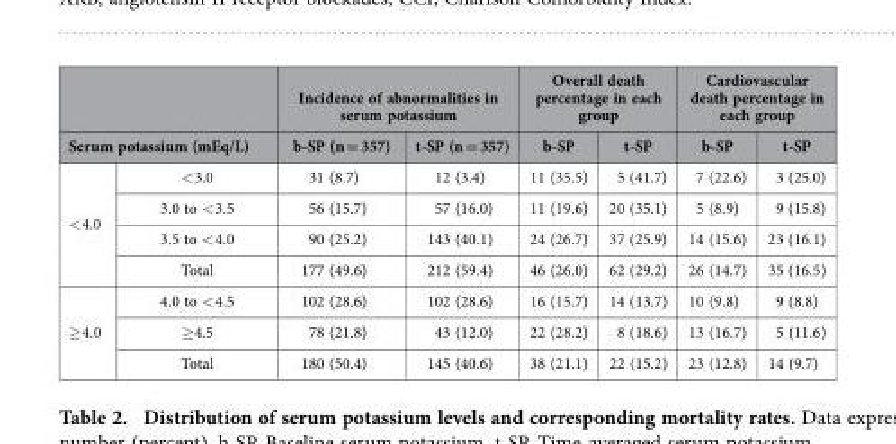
<table><thead><tr><td></td><td></td><td colspan="2">Incidence of abnormalities in serum potassium</td><td colspan="2">Overall death percentage in each group</td><td colspan="2">Cardiovascular death percentage in each group</td></tr><tr><td colspan="2">Serum potassium (mEq/L)</td><td>b-SP (n = 357)</td><td>t-SP (n = 357)</td><td>b-SP</td><td>t-SP</td><td>b-SP</td><td>t-SP</td></tr></thead><tbody><tr><td rowspan="4">&lt; 4.0</td><td>&lt; 3.0</td><td>31 (8.7)</td><td>12 (3.4)</td><td>11 (35.5)</td><td>5 (41.7)</td><td>7 (22.6)</td><td>3 (25.0)</td></tr><tr><td>3.0 to &lt; 3.5</td><td>56 (15.7)</td><td>57 (16.0)</td><td>11 (19.6)</td><td>20 (35.1)</td><td>5 (8.9)</td><td>9 (15.8)</td></tr><tr><td>3.5 to &lt; 4.0</td><td>90 (25.2)</td><td>143 (40.1)</td><td>24 (26.7)</td><td>37 (25.9)</td><td>14 (15.6)</td><td>23 (16.1)</td></tr><tr><td>Total</td><td>177 (49.6)</td><td>212 (59.4)</td><td>46 (26.0)</td><td>62 (29.2)</td><td>26 (14.7)</td><td>35 (16.5)</td></tr><tr><td rowspan="3">≥ 4.0</td><td>4.0 to &lt; 4.5</td><td>102 (28.6)</td><td>102 (28.6)</td><td>16 (15.7)</td><td>14 (13.7)</td><td>10 (9.8)</td><td>9 (8.8)</td></tr><tr><td>≥ 4.5</td><td>78 (21.8)</td><td>43 (12.0)</td><td>22 (28.2)</td><td>8 (18.6)</td><td>13 (16.7)</td><td>5 (11.6)</td></tr><tr><td>Total</td><td>180 (50.4)</td><td>145 (40.6)</td><td>38 (21.1)</td><td>22 (15.2)</td><td>23 (12.8)</td><td>14 (9.7)</td></tr></tbody></table>